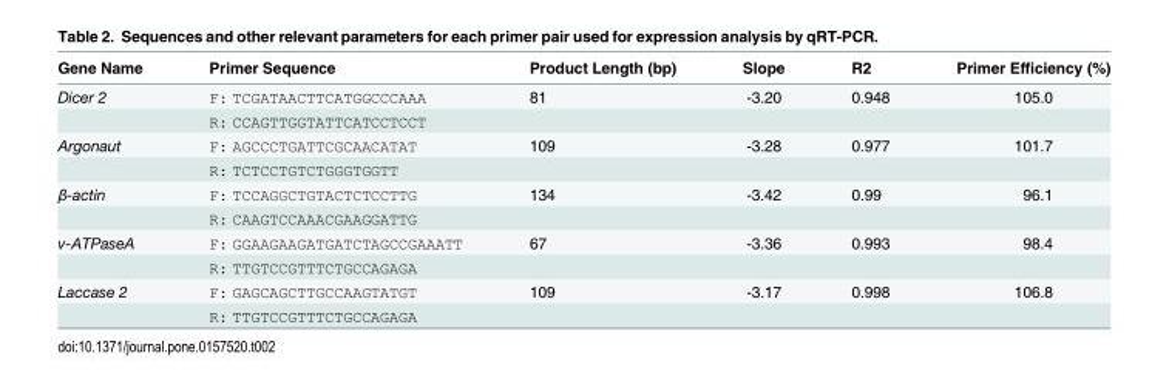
<table><thead><tr><td>Gene Name</td><td>Primer Sequence</td><td>Product Length (bp)</td><td>Slope</td><td>R2</td><td>Primer Efficiency (%)</td></tr></thead><tbody><tr><td rowspan="2">Dicer 2</td><td>F: TCGATAACTTCATGGCCCAAA</td><td>81</td><td>-3.20</td><td>0.948</td><td>105.0</td></tr><tr><td>R: CCAGTTGGTATTCATCCTCCT</td><td></td><td></td><td></td><td></td></tr><tr><td rowspan="2">Argonaut</td><td>F: AGCCCTGATTCGCAACATAT</td><td>109</td><td>-3.28</td><td>0.977</td><td>101.7</td></tr><tr><td>R: TCTCCTGTCTGGGTGGTT</td><td></td><td></td><td></td><td></td></tr><tr><td rowspan="2">β-actin</td><td>F: TCCAGGCTGTACTCTCCTTG</td><td>134</td><td>-3.42</td><td>0.99</td><td>96.1</td></tr><tr><td>R: CAAGTCCAAACGAAGGATTG</td><td></td><td></td><td></td><td></td></tr><tr><td rowspan="2">v-ATPaseA</td><td>F: GGAAGAAGATGATCTAGCCGAAATT</td><td>67</td><td>-3.36</td><td>0.993</td><td>98.4</td></tr><tr><td>R: TTGTCCGTTTCTGCCAGAGA</td><td></td><td></td><td></td><td></td></tr><tr><td rowspan="2">Laccase 2</td><td>F: GAGCAGCTTGCCAAGTATGT</td><td>109</td><td>-3.17</td><td>0.998</td><td>106.8</td></tr><tr><td>R: TTGTCCGTTTCTGCCAGAGA</td><td></td><td></td><td></td><td></td></tr></tbody></table>